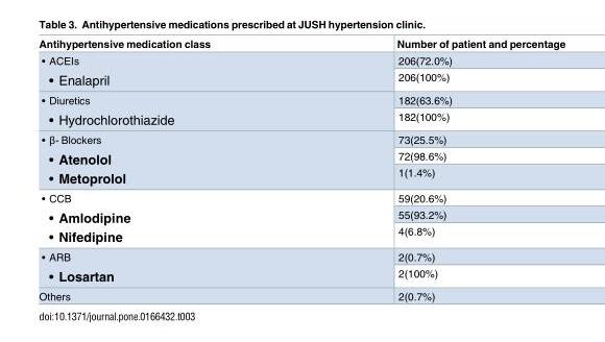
<table><thead><tr><td>Antihypertensive medication class</td><td>Number of patient and percentage</td></tr></thead><tbody><tr><td rowspan="2">• ACEIs • Enalapril</td><td>206(72.0%)</td></tr><tr><td>206(100%)</td></tr><tr><td rowspan="2">• Diuretics • Hydrochlorothiazide</td><td>182(63.6%)</td></tr><tr><td>182(100%)</td></tr><tr><td rowspan="3">• β- Blockers • Atenolol • Metoprolol</td><td>73(25.5%)</td></tr><tr><td>72(98.6%)</td></tr><tr><td>1(1.4%)</td></tr><tr><td rowspan="3">• CCB • Amlodipine • Nifedipine</td><td>59(20.6%)</td></tr><tr><td>55(93.2%)</td></tr><tr><td>4(6.8%)</td></tr><tr><td rowspan="2">• ARB • Losartan</td><td>2(0.7%)</td></tr><tr><td>2(100%)</td></tr><tr><td>Others</td><td>2(0.7%)</td></tr></tbody></table>